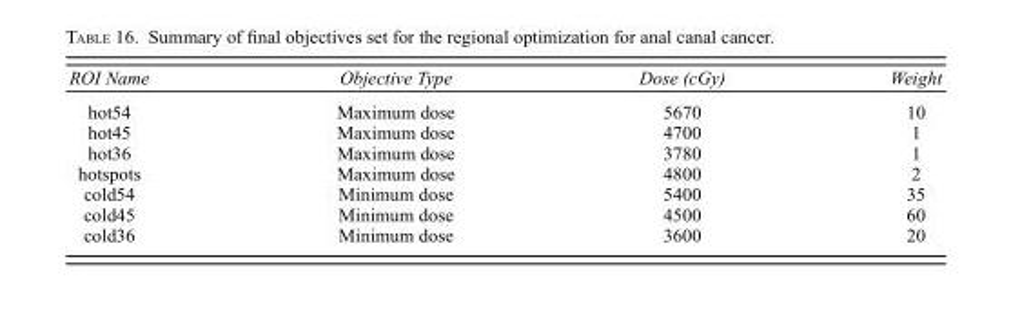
<table><thead><tr><td>ROI Name</td><td>Objective Type</td><td>Dose (cGy)</td><td>Weight</td></tr></thead><tbody><tr><td>hot54</td><td>Maximum dose</td><td>5670</td><td>10</td></tr><tr><td>hot45</td><td>Maximum dose</td><td>4700</td><td>1</td></tr><tr><td>hot36</td><td>Maximum dose</td><td>3780</td><td>1</td></tr><tr><td>hotspots</td><td>Maximum dose</td><td>4800</td><td>2</td></tr><tr><td>cold54</td><td>Minimum dose</td><td>5400</td><td>35</td></tr><tr><td>cold45</td><td>Minimum dose</td><td>4500</td><td>60</td></tr><tr><td>cold36</td><td>Minimum dose</td><td>3600</td><td>20</td></tr></tbody></table>